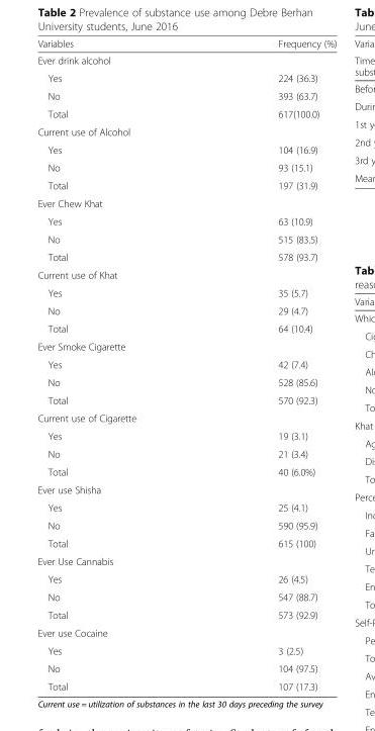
<table><thead><tr><td>Variables</td><td>Frequency (%)</td></tr></thead><tbody><tr><td colspan="2">Ever drink alcohol</td></tr><tr><td>Yes</td><td>224 (36.3)</td></tr><tr><td>No</td><td>393 (63.7)</td></tr><tr><td>Total</td><td>617(100.0)</td></tr><tr><td colspan="2">Current use of Alcohol</td></tr><tr><td>Yes</td><td>104 (16.9)</td></tr><tr><td>No</td><td>93 (15.1)</td></tr><tr><td>Total</td><td>197 (31.9)</td></tr><tr><td colspan="2">Ever Chew Khat</td></tr><tr><td>Yes</td><td>63 (10.9)</td></tr><tr><td>No</td><td>515 (83.5)</td></tr><tr><td>Total</td><td>578 (93.7)</td></tr><tr><td colspan="2">Current use of Khat</td></tr><tr><td>Yes</td><td>35 (5.7)</td></tr><tr><td>No</td><td>29 (4.7)</td></tr><tr><td>Total</td><td>64 (10.4)</td></tr><tr><td colspan="2">Ever Smoke Cigarette</td></tr><tr><td>Yes</td><td>42 (7.4)</td></tr><tr><td>No</td><td>528 (85.6)</td></tr><tr><td>Total</td><td>570 (92.3)</td></tr><tr><td colspan="2">Current use of Cigarette</td></tr><tr><td>Yes</td><td>19 (3.1)</td></tr><tr><td>No</td><td>21 (3.4)</td></tr><tr><td>Total</td><td>40 (6.0%)</td></tr><tr><td colspan="2">Ever use Shisha</td></tr><tr><td>Yes</td><td>25 (4.1)</td></tr><tr><td>No</td><td>590 (95.9)</td></tr><tr><td>Total</td><td>615 (100)</td></tr><tr><td colspan="2">Ever Use Cannabis</td></tr><tr><td>Yes</td><td>26 (4.5)</td></tr><tr><td>No</td><td>547 (88.7)</td></tr><tr><td>Total</td><td>573 (92.9)</td></tr><tr><td colspan="2">Ever use Cocaine</td></tr><tr><td>Yes</td><td>3 (2.5)</td></tr><tr><td>No</td><td>104 (97.5)</td></tr><tr><td>Total</td><td>107 (17.3)</td></tr></tbody></table>